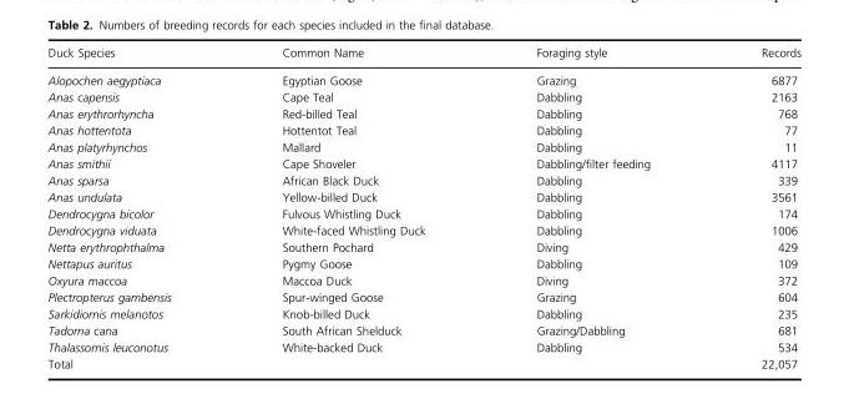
<table><thead><tr><td>Duck Species</td><td>Common Name</td><td>Foraging style</td><td>Records</td></tr></thead><tbody><tr><td>Alopochen aegyptiaca</td><td>Egyptian Goose</td><td>Grazing</td><td>6877</td></tr><tr><td>Anas capensis</td><td>Cape Teal</td><td>Dabbling</td><td>2163</td></tr><tr><td>Anas erythrorhyncha</td><td>Red-billed Teal</td><td>Dabbling</td><td>768</td></tr><tr><td>Anas hottentota</td><td>Hottentot Teal</td><td>Dabbling</td><td>77</td></tr><tr><td>Anas platyrhynchos</td><td>Mallard</td><td>Dabbling</td><td>11</td></tr><tr><td>Anas smithii</td><td>Cape Shoveler</td><td>Dabbling/filter feeding</td><td>4117</td></tr><tr><td>Anas sparsa</td><td>African Black Duck</td><td>Dabbling</td><td>339</td></tr><tr><td>Anas undulata</td><td>Yellow-billed Duck</td><td>Dabbling</td><td>3561</td></tr><tr><td>Dendrocygna bicolor</td><td>Fulvous Whistling Duck</td><td>Dabbling</td><td>174</td></tr><tr><td>Dendrocygna viduata</td><td>White-faced Whistling Duck</td><td>Dabbling</td><td>1006</td></tr><tr><td>Netta erythrophthalma</td><td>Southern Pochard</td><td>Diving</td><td>429</td></tr><tr><td>Nettapus auritus</td><td>Pygmy Goose</td><td>Dabbling</td><td>109</td></tr><tr><td>Oxyura maccoa</td><td>Maccoa Duck</td><td>Diving</td><td>372</td></tr><tr><td>Plectropterus gambensis</td><td>Spur-winged Goose</td><td>Grazing</td><td>604</td></tr><tr><td>Sarkidiornis melanotos</td><td>Knob-billed Duck</td><td>Dabbling</td><td>235</td></tr><tr><td>Tadorna cana</td><td>South African Shelduck</td><td>Grazing/Dabbling</td><td>681</td></tr><tr><td>Thalassornis leuconotus</td><td>White-backed Duck</td><td>Dabbling</td><td>534</td></tr><tr><td>Total</td><td></td><td></td><td>22,057</td></tr></tbody></table>